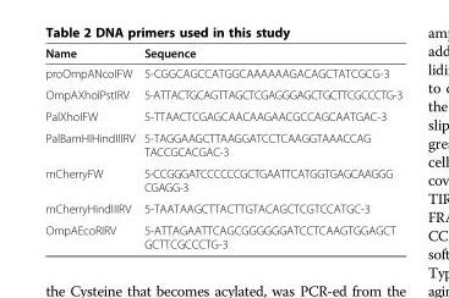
<table><thead><tr><td>Name</td><td>Sequence</td></tr></thead><tbody><tr><td>proOmpANcoIFW</td><td>5-CGGCAGCCATGGCAAAAAAGACAGCTATCGCG-3</td></tr><tr><td>OmpAXhoIPstIRV</td><td>5-ATTACTGCAGTTAGCTCGAGGGAGCTGCTTCGCCCTG-3</td></tr><tr><td>PalXhoIFW</td><td>5-TTAACTCGAGCAACAAGAACGCCAGCAATGAC-3</td></tr><tr><td>PalBamHIHindIIIRV</td><td>5-TAGGAAGCTTAAGGATCCTCAAGGTAAACCAG TACCGCACGAC-3</td></tr><tr><td>mCherryFW</td><td>5-CCGGGATCCCCCCGCTGAATTCATGGTGAGCAAGGG CGAGG-3</td></tr><tr><td>mCherryHindIIIRV</td><td>5-TAATAAGCTTACTTGTACAGCTCGTCCATGC-3</td></tr><tr><td>OmpAEcoRIRV</td><td>5-ATTAGAATTCAGCGGGGGGATCCTCAAGTGGAGCT GCTTCGCCCTG-3</td></tr></tbody></table>